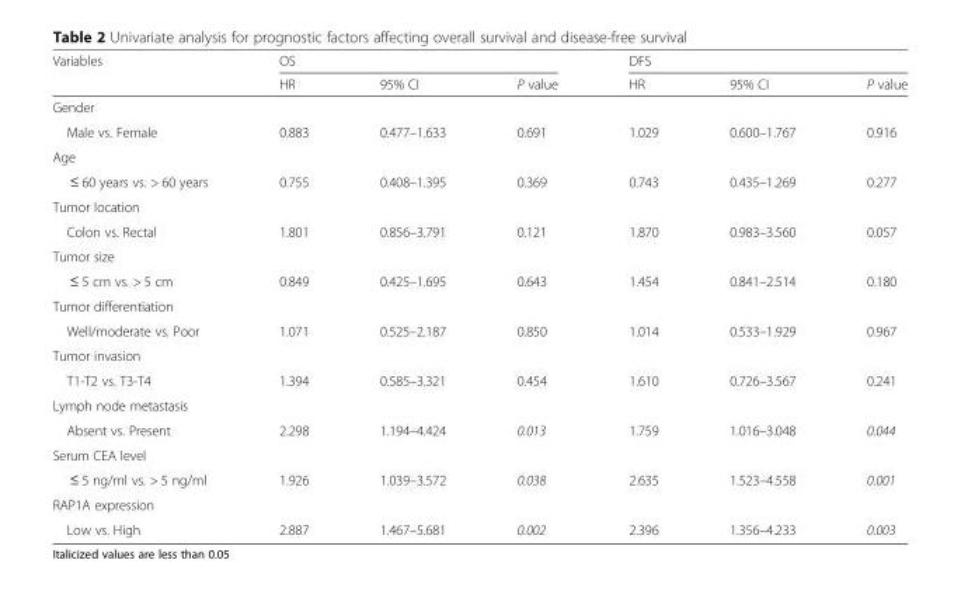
<table><thead><tr><td rowspan="2">Variables</td><td colspan="3">OS</td><td colspan="3">DFS</td></tr><tr><td>HR</td><td>95% CI</td><td>P value</td><td>HR</td><td>95% CI</td><td>P value</td></tr></thead><tbody><tr><td colspan="7">Gender</td></tr><tr><td>Male vs. Female</td><td>0.883</td><td>0.477–1.633</td><td>0.691</td><td>1.029</td><td>0.600–1.767</td><td>0.916</td></tr><tr><td colspan="7">Age</td></tr><tr><td>≤ 60 years vs. &gt; 60 years</td><td>0.755</td><td>0.408–1.395</td><td>0.369</td><td>0.743</td><td>0.435–1.269</td><td>0.277</td></tr><tr><td colspan="7">Tumor location</td></tr><tr><td>Colon vs. Rectal</td><td>1.801</td><td>0.856–3.791</td><td>0.121</td><td>1.870</td><td>0.983–3.560</td><td>0.057</td></tr><tr><td colspan="7">Tumor size</td></tr><tr><td>≤ 5 cm vs. &gt; 5 cm</td><td>0.849</td><td>0.425–1.695</td><td>0.643</td><td>1.454</td><td>0.841–2.514</td><td>0.180</td></tr><tr><td colspan="7">Tumor differentiation</td></tr><tr><td>Well/moderate vs. Poor</td><td>1.071</td><td>0.525–2.187</td><td>0.850</td><td>1.014</td><td>0.533–1.929</td><td>0.967</td></tr><tr><td colspan="7">Tumor invasion</td></tr><tr><td>T1-T2 vs. T3-T4</td><td>1.394</td><td>0.585–3.321</td><td>0.454</td><td>1.610</td><td>0.726–3.567</td><td>0.241</td></tr><tr><td colspan="7">Lymph node metastasis</td></tr><tr><td>Absent vs. Present</td><td>2.298</td><td>1.194–4.424</td><td>0.013</td><td>1.759</td><td>1.016–3.048</td><td>0.044</td></tr><tr><td colspan="7">Serum CEA level</td></tr><tr><td>≤ 5 ng/ml vs. &gt; 5 ng/ml</td><td>1.926</td><td>1.039–3.572</td><td>0.038</td><td>2.635</td><td>1.523–4.558</td><td>0.001</td></tr><tr><td colspan="7">RAP1A expression</td></tr><tr><td>Low vs. High</td><td>2.887</td><td>1.467–5.681</td><td>0.002</td><td>2.396</td><td>1.356–4.233</td><td>0.003</td></tr></tbody></table>